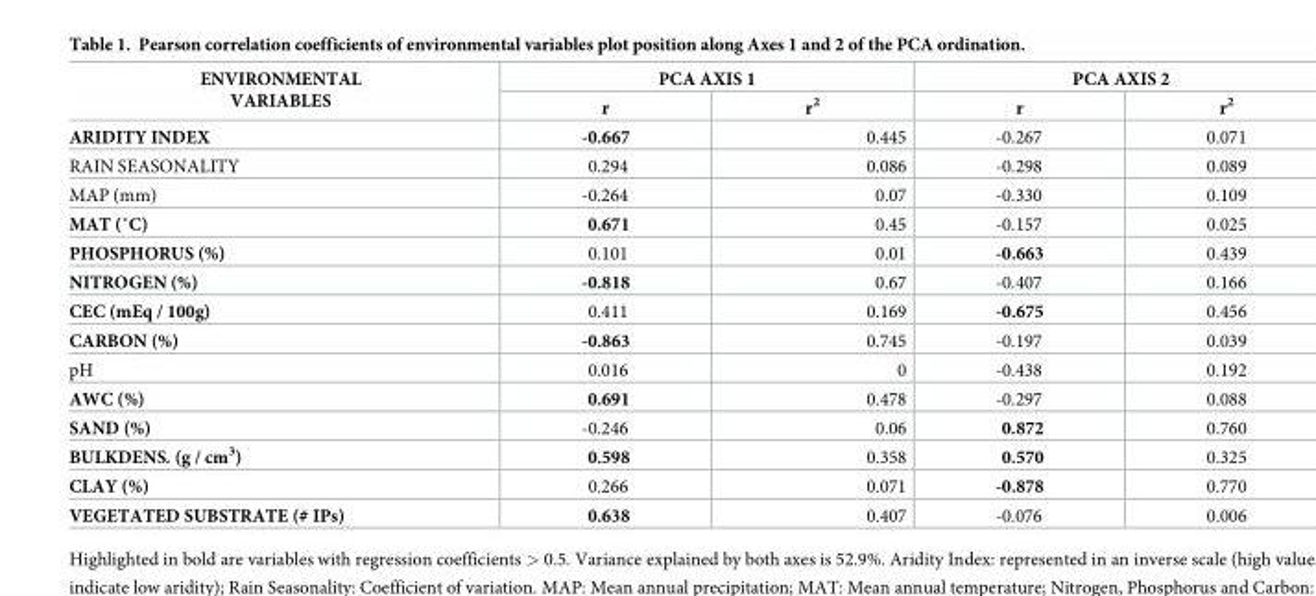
<table><thead><tr><td rowspan="2">ENVIRONMENTAL VARIABLES</td><td colspan="2">PCA AXIS 1</td><td colspan="2">PCA AXIS 2</td></tr><tr><td>r</td><td>r<sup>2</sup></td><td>r</td><td>r<sup>2</sup></td></tr></thead><tbody><tr><td>ARIDITY INDEX</td><td>-0.667</td><td>0.445</td><td>-0.267</td><td>0.071</td></tr><tr><td>RAIN SEASONALITY</td><td>0.294</td><td>0.086</td><td>-0.298</td><td>0.089</td></tr><tr><td>MAP (mm)</td><td>-0.264</td><td>0.07</td><td>-0.330</td><td>0.109</td></tr><tr><td>MAT (˚C)</td><td>0.671</td><td>0.45</td><td>-0.157</td><td>0.025</td></tr><tr><td>PHOSPHORUS (%)</td><td>0.101</td><td>0.01</td><td>-0.663</td><td>0.439</td></tr><tr><td>NITROGEN (%)</td><td>-0.818</td><td>0.67</td><td>-0.407</td><td>0.166</td></tr><tr><td>CEC (mEq / 100g)</td><td>0.411</td><td>0.169</td><td>-0.675</td><td>0.456</td></tr><tr><td>CARBON (%)</td><td>-0.863</td><td>0.745</td><td>-0.197</td><td>0.039</td></tr><tr><td>pH</td><td>0.016</td><td>0</td><td>-0.438</td><td>0.192</td></tr><tr><td>AWC (%)</td><td>0.691</td><td>0.478</td><td>-0.297</td><td>0.088</td></tr><tr><td>SAND (%)</td><td>-0.246</td><td>0.06</td><td>0.872</td><td>0.760</td></tr><tr><td>BULKDENS. (g / cm<sup>3</sup>)</td><td>0.598</td><td>0.358</td><td>0.570</td><td>0.325</td></tr><tr><td>CLAY (%)</td><td>0.266</td><td>0.071</td><td>-0.878</td><td>0.770</td></tr><tr><td>VEGETATED SUBSTRATE (# IPs)</td><td>0.638</td><td>0.407</td><td>-0.076</td><td>0.006</td></tr></tbody></table>